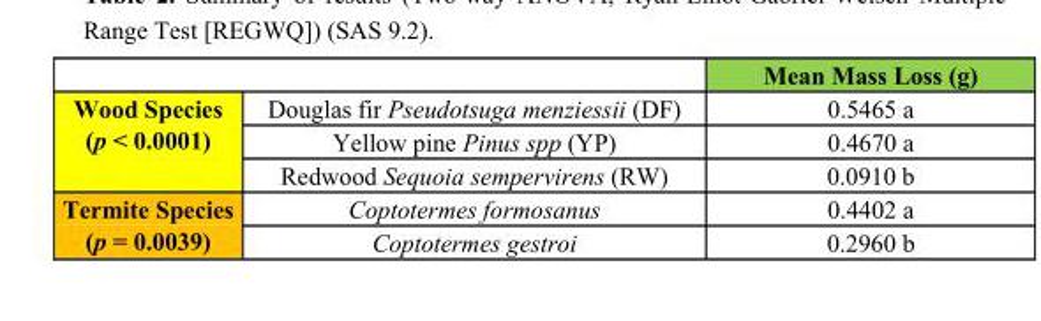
<table><thead><tr><td></td><td></td><td>Mean Mass Loss (g)</td></tr></thead><tbody><tr><td rowspan="3">Wood Species (p &lt; 0.0001)</td><td>Douglas fir Pseudotsuga menziessii (DF)</td><td>0.5465 a</td></tr><tr><td>Yellow pine Pinus spp (YP)</td><td>0.4670 a</td></tr><tr><td>Redwood Sequoia sempervirens (RW)</td><td>0.0910 b</td></tr><tr><td rowspan="2">Termite Species (p = 0.0039)</td><td>Coptotermes formosanus</td><td>0.4402 a</td></tr><tr><td>Coptotermes gestroi</td><td>0.2960 b</td></tr></tbody></table>